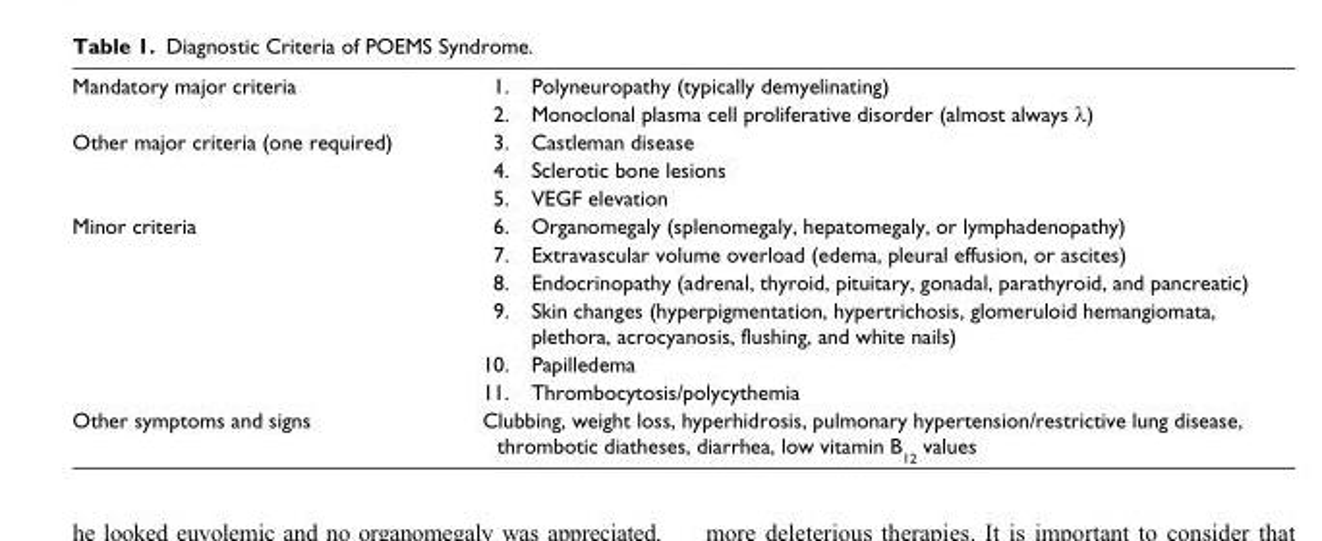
<table><tbody><tr><td rowspan="2">Mandatory major criteria</td><td>1. Polyneuropathy (typically demyelinating)</td></tr><tr><td>2. Monoclonal plasma cell proliferative disorder (almost always λ)</td></tr><tr><td rowspan="3">Other major criteria (one required)</td><td>3. Castleman disease</td></tr><tr><td>4. Sclerotic bone lesions</td></tr><tr><td>5. VEGF elevation</td></tr><tr><td rowspan="6">Minor criteria</td><td>6. Organomegaly (splenomegaly, hepatomegaly, or lymphadenopathy)</td></tr><tr><td>7. Extravascular volume overload (edema, pleural effusion, or ascites)</td></tr><tr><td>8. Endocrinopathy (adrenal, thyroid, pituitary, gonadal, parathyroid, and pancreatic)</td></tr><tr><td>9. Skin changes (hyperpigmentation, hypertrichosis, glomeruloid hemangiomata, plethora, acrocyanosis, flushing, and white nails)</td></tr><tr><td>10. Papilledema</td></tr><tr><td>11. Thrombocytosis/polycythemia</td></tr><tr><td>Other symptoms and signs</td><td>Clubbing, weight loss, hyperhidrosis, pulmonary hypertension/restrictive lung disease, thrombotic diatheses, diarrhea, low vitamin B<sub>12</sub> values</td></tr></tbody></table>